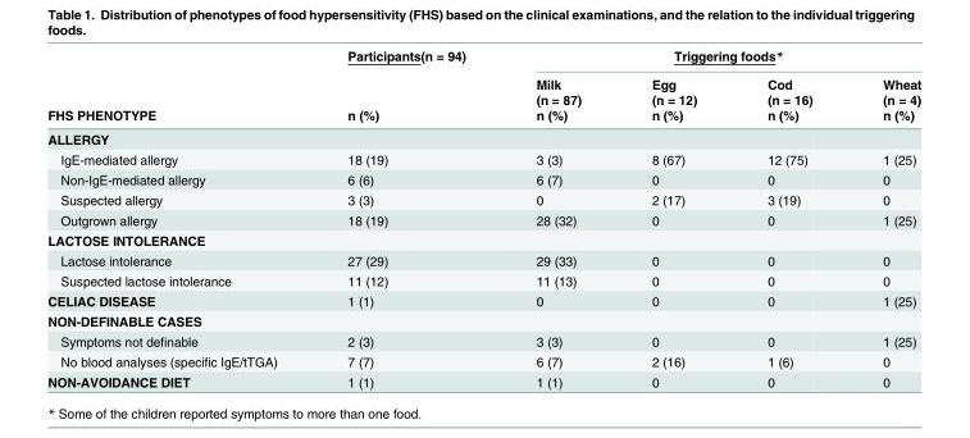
<table><thead><tr><td rowspan="4">FHS PHENOTYPE</td><td rowspan="4">Participants(n = 94) n (%)</td><td colspan="4">Triggering foods*</td></tr><tr><td rowspan="3">Milk (n = 87) n (%)</td><td rowspan="3">Egg (n = 12) n (%)</td><td rowspan="3">Cod (n = 16) n (%)</td><td rowspan="3">Wheat (n = 4) n (%)</td></tr><tr></tr><tr></tr></thead><tbody><tr><td colspan="6">ALLERGY</td></tr><tr><td>IgE-mediated allergy</td><td>18 (19)</td><td>3 (3)</td><td>8 (67)</td><td>12 (75)</td><td>1 (25)</td></tr><tr><td>Non-IgE-mediated allergy</td><td>6 (6)</td><td>6 (7)</td><td>0</td><td>0</td><td>0</td></tr><tr><td>Suspected allergy</td><td>3 (3)</td><td>0</td><td>2 (17)</td><td>3 (19)</td><td>0</td></tr><tr><td>Outgrown allergy</td><td>18 (19)</td><td>28 (32)</td><td>0</td><td>0</td><td>1 (25)</td></tr><tr><td colspan="6">LACTOSE INTOLERANCE</td></tr><tr><td>Lactose intolerance</td><td>27 (29)</td><td>29 (33)</td><td>0</td><td>0</td><td>0</td></tr><tr><td>Suspected lactose intolerance</td><td>11 (12)</td><td>11 (13)</td><td>0</td><td>0</td><td>0</td></tr><tr><td>CELIAC DISEASE</td><td>1 (1)</td><td>0</td><td>0</td><td>0</td><td>1 (25)</td></tr><tr><td colspan="6">NON-DEFINABLE CASES</td></tr><tr><td>Symptoms not definable</td><td>2 (3)</td><td>3 (3)</td><td>0</td><td>0</td><td>1 (25)</td></tr><tr><td>No blood analyses (specific IgE/tTGA)</td><td>7 (7)</td><td>6 (7)</td><td>2 (16)</td><td>1 (6)</td><td>0</td></tr><tr><td>NON-AVOIDANCE DIET</td><td>1 (1)</td><td>1 (1)</td><td>0</td><td>0</td><td>0</td></tr></tbody></table>